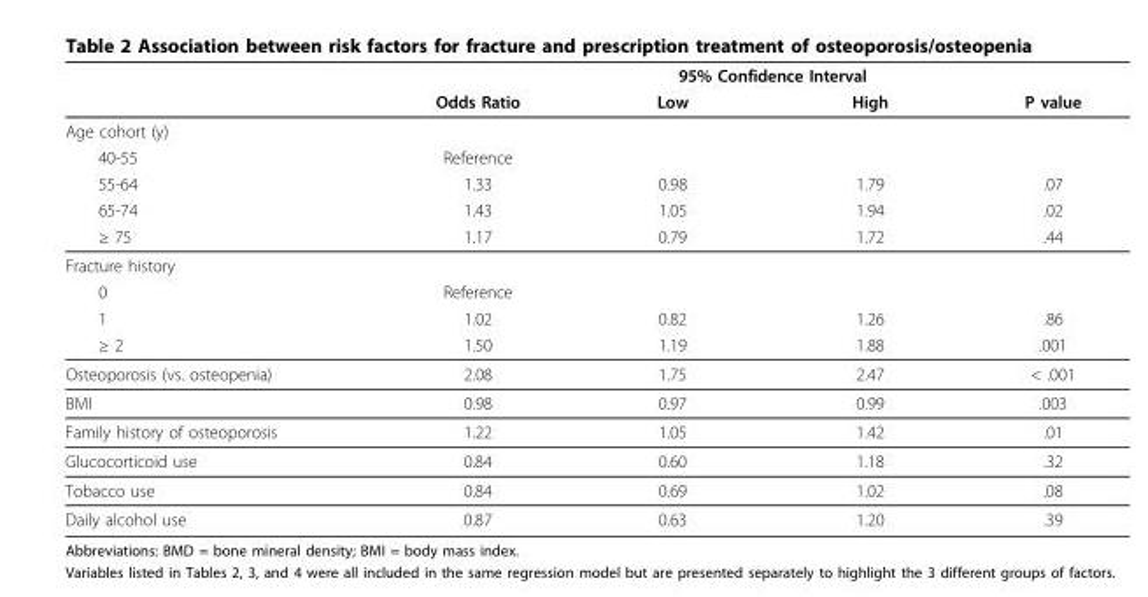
<table><thead><tr><td rowspan="2"></td><td rowspan="2">Odds Ratio</td><td colspan="2">95% Confidence Interval</td><td rowspan="2">P value</td></tr><tr><td>Low</td><td>High</td></tr></thead><tbody><tr><td colspan="5">Age cohort (y)</td></tr><tr><td>40-55</td><td>Reference</td><td></td><td></td><td></td></tr><tr><td>55-64</td><td>1.33</td><td>0.98</td><td>1.79</td><td>.07</td></tr><tr><td>65-74</td><td>1.43</td><td>1.05</td><td>1.94</td><td>.02</td></tr><tr><td>≥ 75</td><td>1.17</td><td>0.79</td><td>1.72</td><td>.44</td></tr><tr><td colspan="5">Fracture history</td></tr><tr><td>0</td><td>Reference</td><td></td><td></td><td></td></tr><tr><td>1</td><td>1.02</td><td>0.82</td><td>1.26</td><td>.86</td></tr><tr><td>≥ 2</td><td>1.50</td><td>1.19</td><td>1.88</td><td>.001</td></tr><tr><td>Osteoporosis (vs. osteopenia)</td><td>2.08</td><td>1.75</td><td>2.47</td><td>&lt; .001</td></tr><tr><td>BMI</td><td>0.98</td><td>0.97</td><td>0.99</td><td>.003</td></tr><tr><td>Family history of osteoporosis</td><td>1.22</td><td>1.05</td><td>1.42</td><td>.01</td></tr><tr><td>Glucocorticoid use</td><td>0.84</td><td>0.60</td><td>1.18</td><td>.32</td></tr><tr><td>Tobacco use</td><td>0.84</td><td>0.69</td><td>1.02</td><td>.08</td></tr><tr><td>Daily alcohol use</td><td>0.87</td><td>0.63</td><td>1.20</td><td>.39</td></tr></tbody></table>